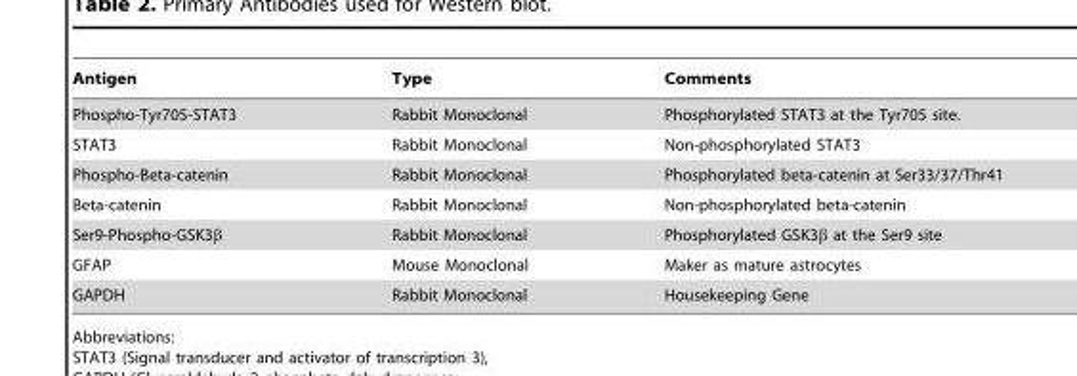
<table><thead><tr><td>Antigen</td><td>Type</td><td>Comments</td></tr></thead><tbody><tr><td>Phospho-Tyr705-STAT3</td><td>Rabbit Monoclonal</td><td>Phosphorylated STAT3 at the Tyr705 site.</td></tr><tr><td>STAT3</td><td>Rabbit Monoclonal</td><td>Non-phosphorylated STAT3</td></tr><tr><td>Phospho-Beta-catenin</td><td>Rabbit Monoclonal</td><td>Phosphorylated beta-catenin at Ser33/37/Thr41</td></tr><tr><td>Beta-catenin</td><td>Rabbit Monoclonal</td><td>Non-phosphorylated beta-catenin</td></tr><tr><td>Ser9-Phospho-GSK3β</td><td>Rabbit Monoclonal</td><td>Phosphorylated GSK3β at the Ser9 site</td></tr><tr><td>GFAP</td><td>Mouse Monoclonal</td><td>Maker as mature astrocytes</td></tr><tr><td>GAPDH</td><td>Rabbit Monoclonal</td><td>Housekeeping Gene</td></tr></tbody></table>